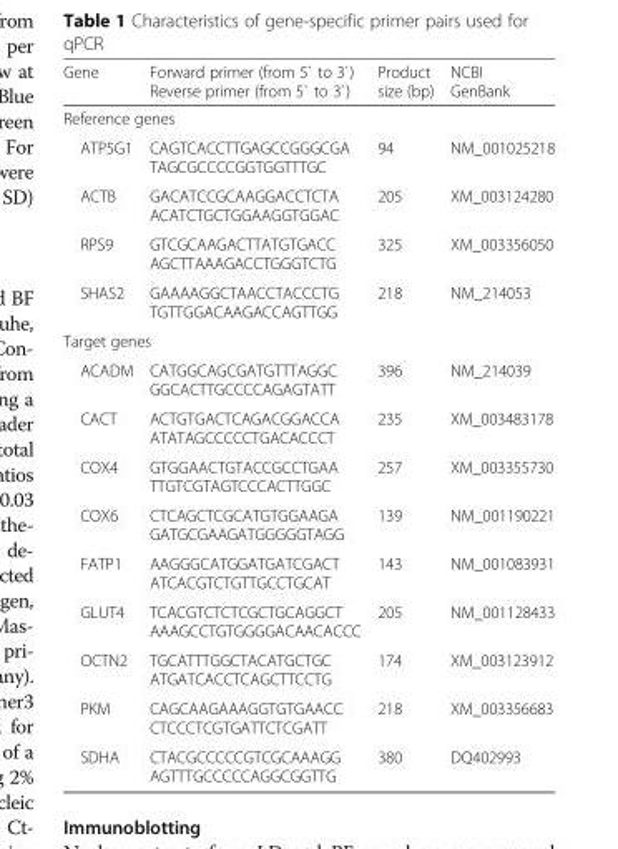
<table><thead><tr><td>Gene</td><td>Forward primer (from 5` to 3`) Reverse primer (from 5` to 3`)</td><td>Product size (bp)</td><td>NCBI GenBank</td></tr></thead><tbody><tr><td colspan="4">Reference genes</td></tr><tr><td>ATP5G1</td><td>CAGTCACCTTGAGCCGGGCGA TAGCGCCCCGGTGGTTTGC</td><td>94</td><td>NM_001025218</td></tr><tr><td>ACTB</td><td>GACATCCGCAAGGACCTCTA ACATCTGCTGGAAGGTGGAC</td><td>205</td><td>XM_003124280</td></tr><tr><td>RPS9</td><td>GTCGCAAGACTTATGTGACC AGCTTAAAGACCTGGGTCTG</td><td>325</td><td>XM_003356050</td></tr><tr><td>SHAS2</td><td>GAAAAGGCTAACCTACCCTG TGTTGGACAAGACCAGTTGG</td><td>218</td><td>NM_214053</td></tr><tr><td colspan="4">Target genes</td></tr><tr><td>ACADM</td><td>CATGGCAGCGATGTTTAGGC GGCACTTGCCCCAGAGTATT</td><td>396</td><td>NM_214039</td></tr><tr><td>CACT</td><td>ACTGTGACTCAGACGGACCA ATATAGCCCCCTGACACCCT</td><td>235</td><td>XM_003483178</td></tr><tr><td>COX4</td><td>GTGGAACTGTACCGCCTGAA TTGTCGTAGTCCCACTTGGC</td><td>257</td><td>XM_003355730</td></tr><tr><td>COX6</td><td>CTCAGCTCGCATGTGGAAGA GATGCGAAGATGGGGGTAGG</td><td>139</td><td>NM_001190221</td></tr><tr><td>FATP1</td><td>AAGGGCATGGATGATCGACT ATCACGTCTGTTGCCTGCAT</td><td>143</td><td>NM_001083931</td></tr><tr><td>GLUT4</td><td>TCACGTCTCTCGCTGCAGGCT AAAGCCTGTGGGGACAACACCC</td><td>205</td><td>NM_001128433</td></tr><tr><td>OCTN2</td><td>TGCATTTGGCTACATGCTGC ATGATCACCTCAGCTTCCTG</td><td>174</td><td>XM_003123912</td></tr><tr><td>PKM</td><td>CAGCAAGAAAGGTGTGAACC CTCCCTCGTGATTCTCGATT</td><td>218</td><td>XM_003356683</td></tr><tr><td>SDHA</td><td>CTACGCCCCCGTCGCAAAGG AGTTTGCCCCCAGGCGGTTG</td><td>380</td><td>DQ402993</td></tr></tbody></table>